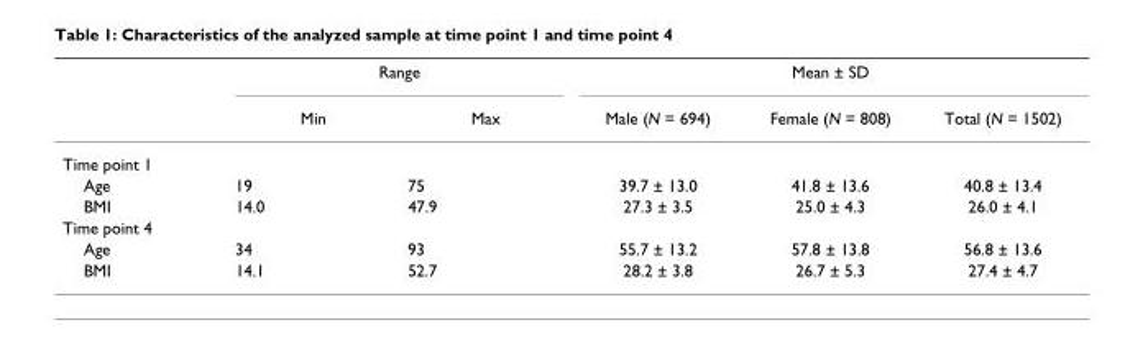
<table><thead><tr><td rowspan="2"></td><td colspan="2">Range</td><td colspan="3">Mean ± SD</td></tr><tr><td>Min</td><td>Max</td><td>Male (N = 694)</td><td>Female (N = 808)</td><td>Total (N = 1502)</td></tr></thead><tbody><tr><td colspan="6">Time point 1</td></tr><tr><td>Age</td><td>19</td><td>75</td><td>39.7 ± 13.0</td><td>41.8 ± 13.6</td><td>40.8 ± 13.4</td></tr><tr><td>BMI</td><td>14.0</td><td>47.9</td><td>27.3 ± 3.5</td><td>25.0 ± 4.3</td><td>26.0 ± 4.1</td></tr><tr><td colspan="6">Time point 4</td></tr><tr><td>Age</td><td>34</td><td>93</td><td>55.7 ± 13.2</td><td>57.8 ± 13.8</td><td>56.8 ± 13.6</td></tr><tr><td>BMI</td><td>14.1</td><td>52.7</td><td>28.2 ± 3.8</td><td>26.7 ± 5.3</td><td>27.4 ± 4.7</td></tr></tbody></table>